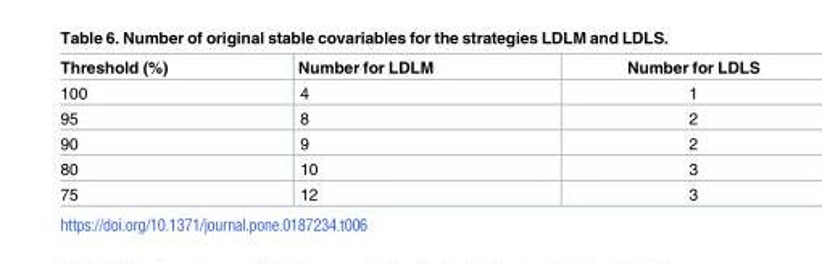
<table><thead><tr><td>Threshold (%)</td><td>Number for LDLM</td><td>Number for LDLS</td></tr></thead><tbody><tr><td>100</td><td>4</td><td>1</td></tr><tr><td>95</td><td>8</td><td>2</td></tr><tr><td>90</td><td>9</td><td>2</td></tr><tr><td>80</td><td>10</td><td>3</td></tr><tr><td>75</td><td>12</td><td>3</td></tr></tbody></table>